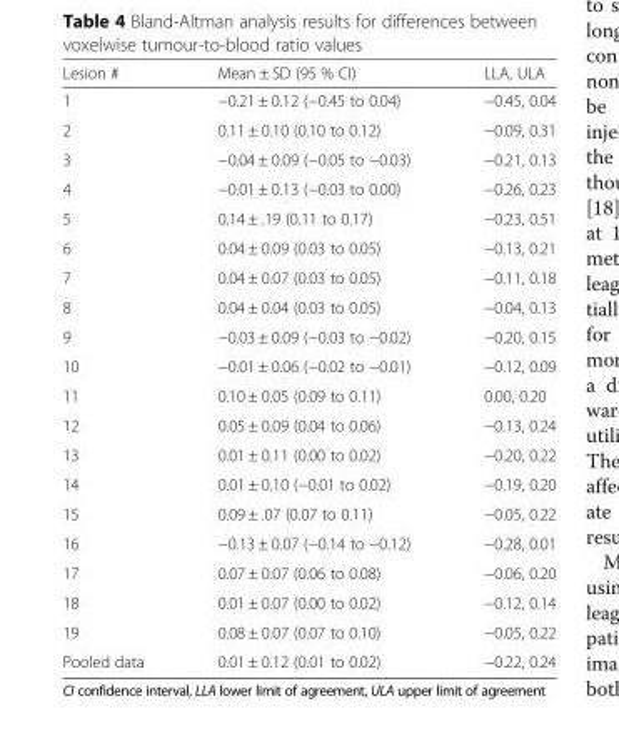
<table><thead><tr><td>Lesion #</td><td>Mean ± SD (95 % CI)</td><td>LLA, ULA</td></tr></thead><tbody><tr><td>1</td><td>−0.21 ± 0.12 (−0.45 to 0.04)</td><td>−0.45, 0.04</td></tr><tr><td>2</td><td>0.11 ± 0.10 (0.10 to 0.12)</td><td>−0.09, 0.31</td></tr><tr><td>3</td><td>−0.04 ± 0.09 (−0.05 to −0.03)</td><td>−0.21, 0.13</td></tr><tr><td>4</td><td>−0.01 ± 0.13 (−0.03 to 0.00)</td><td>−0.26, 0.23</td></tr><tr><td>5</td><td>0.14 ± .19 (0.11 to 0.17)</td><td>−0.23, 0.51</td></tr><tr><td>6</td><td>0.04 ± 0.09 (0.03 to 0.05)</td><td>−0.13, 0.21</td></tr><tr><td>7</td><td>0.04 ± 0.07 (0.03 to 0.05)</td><td>−0.11, 0.18</td></tr><tr><td>8</td><td>0.04 ± 0.04 (0.03 to 0.05)</td><td>−0.04, 0.13</td></tr><tr><td>9</td><td>−0.03 ± 0.09 (−0.03 to −0.02)</td><td>−0.20, 0.15</td></tr><tr><td>10</td><td>−0.01 ± 0.06 (−0.02 to −0.01)</td><td>−0.12, 0.09</td></tr><tr><td>11</td><td>0.10 ± 0.05 (0.09 to 0.11)</td><td>0.00, 0.20</td></tr><tr><td>12</td><td>0.05 ± 0.09 (0.04 to 0.06)</td><td>−0.13, 0.24</td></tr><tr><td>13</td><td>0.01 ± 0.11 (0.00 to 0.02)</td><td>−0.20, 0.22</td></tr><tr><td>14</td><td>0.01 ± 0.10 (−0.01 to 0.02)</td><td>−0.19, 0.20</td></tr><tr><td>15</td><td>0.09 ± .07 (0.07 to 0.11)</td><td>−0.05, 0.22</td></tr><tr><td>16</td><td>−0.13 ± 0.07 (−0.14 to −0.12)</td><td>−0.28, 0.01</td></tr><tr><td>17</td><td>0.07 ± 0.07 (0.06 to 0.08)</td><td>−0.06, 0.20</td></tr><tr><td>18</td><td>0.01 ± 0.07 (0.00 to 0.02)</td><td>−0.12, 0.14</td></tr><tr><td>19</td><td>0.08 ± 0.07 (0.07 to 0.10)</td><td>−0.05, 0.22</td></tr><tr><td>Pooled data</td><td>0.01 ± 0.12 (0.01 to 0.02)</td><td>−0.22, 0.24</td></tr></tbody></table>